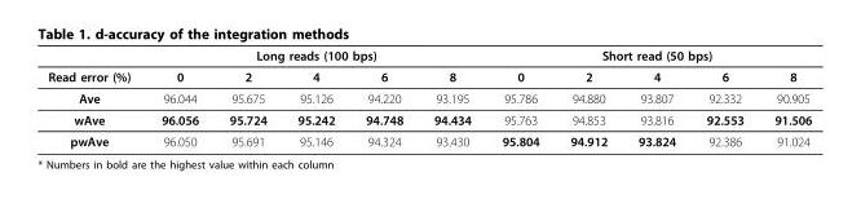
<table><thead><tr><td rowspan="2">Read error (%)</td><td colspan="5">Long reads (100 bps)</td><td colspan="5">Short read (50 bps)</td></tr><tr><td>0</td><td>2</td><td>4</td><td>6</td><td>8</td><td>0</td><td>2</td><td>4</td><td>6</td><td>8</td></tr></thead><tbody><tr><td>Ave</td><td>96.044</td><td>95.675</td><td>95.126</td><td>94.220</td><td>93.195</td><td>95.786</td><td>94.880</td><td>93.807</td><td>92.332</td><td>90.905</td></tr><tr><td>wAve</td><td>96.056</td><td>95.724</td><td>95.242</td><td>94.748</td><td>94.434</td><td>95.763</td><td>94.853</td><td>93.816</td><td>92.553</td><td>91.506</td></tr><tr><td>pwAve</td><td>96.050</td><td>95.691</td><td>95.146</td><td>94.324</td><td>93.430</td><td>95.804</td><td>94.912</td><td>93.824</td><td>92.386</td><td>91.024</td></tr></tbody></table>